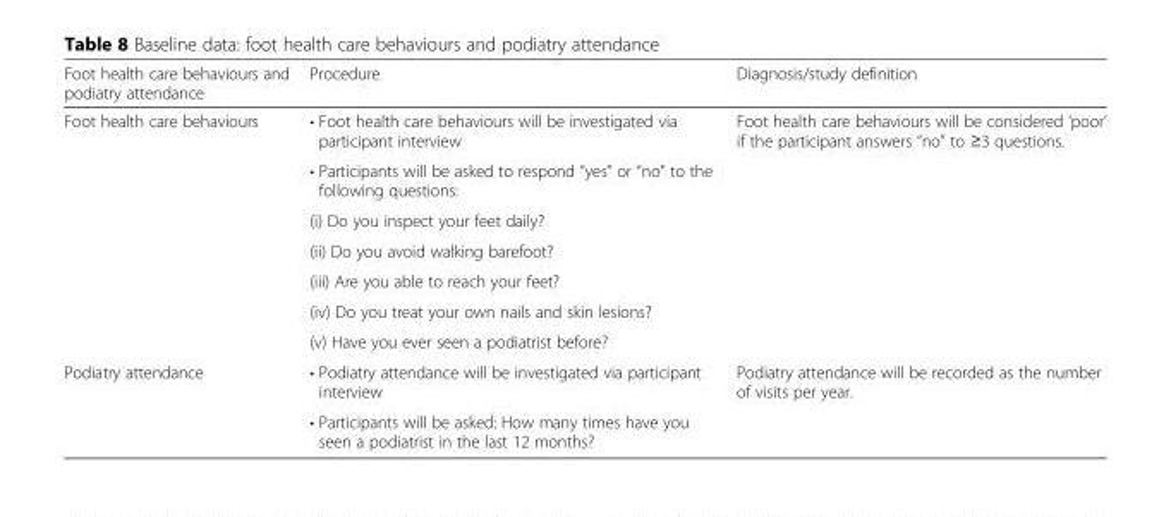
<table><thead><tr><td>Foot health care behaviours and podiatry attendance</td><td>Procedure</td><td>Diagnosis/study definition</td></tr></thead><tbody><tr><td rowspan="7">Foot health care behaviours</td><td>• Foot health care behaviours will be investigated via participant interview</td><td rowspan="7">Foot health care behaviours will be considered ‘poor’ if the participant answers “no” to ≥3 questions.</td></tr><tr><td>• Participants will be asked to respond “yes” or “no” to the following questions:</td></tr><tr><td>(i) Do you inspect your feet daily?</td></tr><tr><td>(ii) Do you avoid walking barefoot?</td></tr><tr><td>(iii) Are you able to reach your feet?</td></tr><tr><td>(iv) Do you treat your own nails and skin lesions?</td></tr><tr><td>(v) Have you ever seen a podiatrist before?</td></tr><tr><td rowspan="2">Podiatry attendance</td><td>• Podiatry attendance will be investigated via participant interview</td><td rowspan="2">Podiatry attendance will be recorded as the number of visits per year.</td></tr><tr><td>• Participants will be asked: How many times have you seen a podiatrist in the last 12 months?</td></tr></tbody></table>